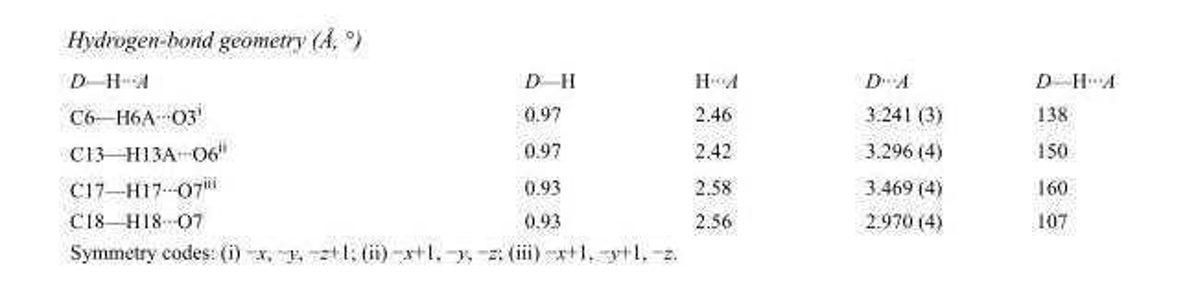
<table><tbody><tr><td>D—H···A</td><td>D—H</td><td>H···A</td><td>D···A</td><td>D—H···A</td></tr><tr><td>C6—H6A···O3<sup>i</sup></td><td>0.97</td><td>2.46</td><td>3.241 (3)</td><td>138</td></tr><tr><td>C13—H13A···O6<sup>ii</sup></td><td>0.97</td><td>2.42</td><td>3.296 (4)</td><td>150</td></tr><tr><td>C17—H17···O7<sup>iii</sup></td><td>0.93</td><td>2.58</td><td>3.469 (4)</td><td>160</td></tr><tr><td>C18—H18···O7</td><td>0.93</td><td>2.56</td><td>2.970 (4)</td><td>107</td></tr></tbody></table>